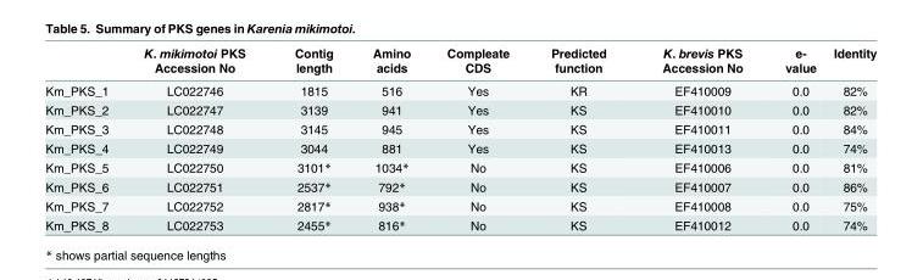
<table><thead><tr><td></td><td>K. mikimotoi PKS Accession No</td><td>Contig length</td><td>Amino acids</td><td>Compleate CDS</td><td>Predicted function</td><td>K. brevis PKS Accession No</td><td>e- value</td><td>Identity</td></tr></thead><tbody><tr><td>Km_PKS_1</td><td>LC022746</td><td>1815</td><td>516</td><td>Yes</td><td>KR</td><td>EF410009</td><td>0.0</td><td>82%</td></tr><tr><td>Km_PKS_2</td><td>LC022747</td><td>3139</td><td>941</td><td>Yes</td><td>KS</td><td>EF410010</td><td>0.0</td><td>82%</td></tr><tr><td>Km_PKS_3</td><td>LC022748</td><td>3145</td><td>945</td><td>Yes</td><td>KS</td><td>EF410011</td><td>0.0</td><td>84%</td></tr><tr><td>Km_PKS_4</td><td>LC022749</td><td>3044</td><td>881</td><td>Yes</td><td>KS</td><td>EF410013</td><td>0.0</td><td>74%</td></tr><tr><td>Km_PKS_5</td><td>LC022750</td><td>3101*</td><td>1034*</td><td>No</td><td>KS</td><td>EF410006</td><td>0.0</td><td>81%</td></tr><tr><td>Km_PKS_6</td><td>LC022751</td><td>2537*</td><td>792*</td><td>No</td><td>KS</td><td>EF410007</td><td>0.0</td><td>86%</td></tr><tr><td>Km_PKS_7</td><td>LC022752</td><td>2817*</td><td>938*</td><td>No</td><td>KS</td><td>EF410008</td><td>0.0</td><td>75%</td></tr><tr><td>Km_PKS_8</td><td>LC022753</td><td>2455*</td><td>816*</td><td>No</td><td>KS</td><td>EF410012</td><td>0.0</td><td>74%</td></tr></tbody></table>